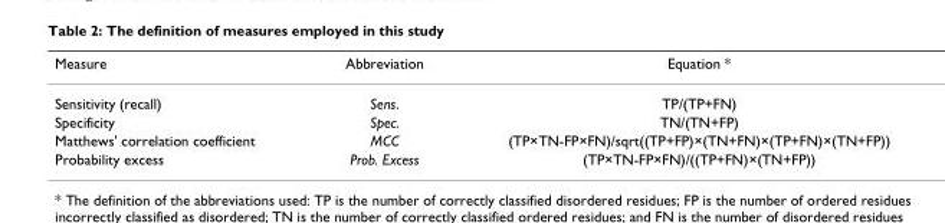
<table><thead><tr><td>Measure</td><td>Abbreviation</td><td>Equation *</td></tr></thead><tbody><tr><td>Sensitivity (recall)</td><td>Sens.</td><td>TP/(TP+FN)</td></tr><tr><td>Specificity</td><td>Spec.</td><td>TN/(TN+FP)</td></tr><tr><td>Matthews&#x27; correlation coefficient</td><td>MCC</td><td>(TP×TN-FP×FN)/sqrt((TP+FP)×(TN+FN)×(TP+FN)×(TN+FP))</td></tr><tr><td>Probability excess</td><td>Prob. Excess</td><td>(TP×TN-FP×FN)/((TP+FN)×(TN+FP))</td></tr></tbody></table>